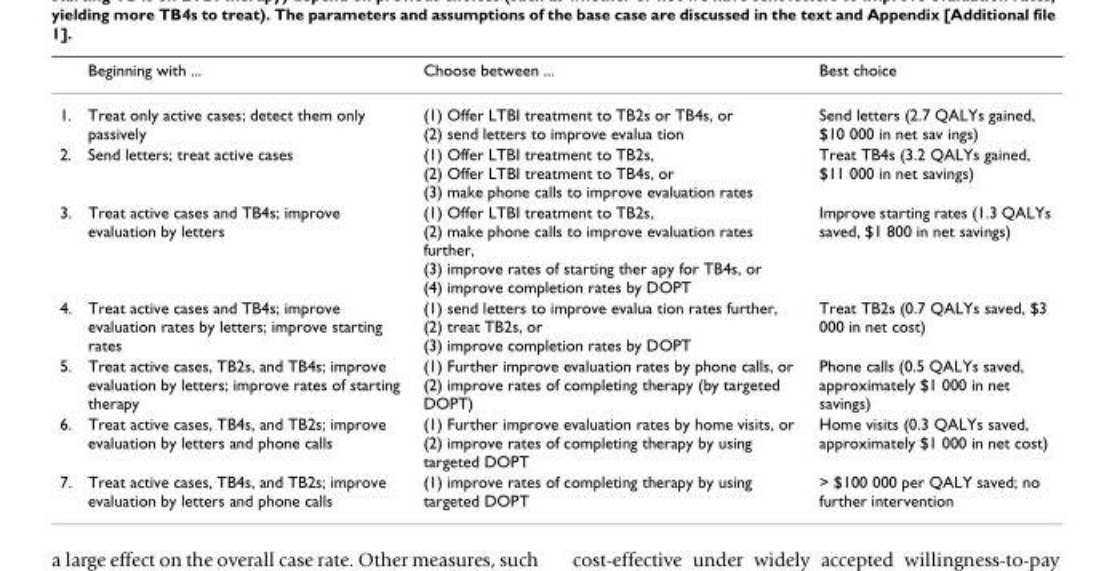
<table><thead><tr><td></td><td>Beginning with ...</td><td>Choose between ...</td><td>Best choice</td></tr></thead><tbody><tr><td>1.</td><td>Treat only active cases; detect them only passively</td><td>(1) Offer LTBI treatment to TB2s or TB4s, or (2) send letters to improve evalua tion</td><td>Send letters (2.7 QALYs gained, $10 000 in net sav ings)</td></tr><tr><td>2.</td><td>Send letters; treat active cases</td><td>(1) Offer LTBI treatment to TB2s, (2) Offer LTBI treatment to TB4s, or (3) make phone calls to improve evaluation rates</td><td>Treat TB4s (3.2 QALYs gained, $11 000 in net savings)</td></tr><tr><td>3.</td><td>Treat active cases and TB4s; improve evaluation by letters</td><td>(1) Offer LTBI treatment to TB2s, (2) make phone calls to improve evaluation rates further, (3) improve rates of starting ther apy for TB4s, or (4) improve completion rates by DOPT</td><td>Improve starting rates (1.3 QALYs saved, $1 800 in net savings)</td></tr><tr><td>4.</td><td>Treat active cases and TB4s; improve evaluation rates by letters; improve starting rates</td><td>(1) send letters to improve evalua tion rates further, (2) treat TB2s, or (3) improve completion rates by DOPT</td><td>Treat TB2s (0.7 QALYs saved, $3 000 in net cost)</td></tr><tr><td>5.</td><td>Treat active cases, TB2s, and TB4s; improve evaluation by letters; improve rates of starting therapy</td><td>(1) Further improve evaluation rates by phone calls, or (2) improve rates of completing therapy (by targeted DOPT)</td><td>Phone calls (0.5 QALYs saved, approximately $1 000 in net savings)</td></tr><tr><td>6.</td><td>Treat active cases, TB4s, and TB2s; improve evaluation by letters and phone calls</td><td>(1) Further improve evaluation rates by home visits, or (2) improve rates of completing therapy by using targeted DOPT</td><td>Home visits (0.3 QALYs saved, approximately $1 000 in net cost)</td></tr><tr><td>7.</td><td>Treat active cases, TB4s, and TB2s; improve evaluation by letters and phone calls</td><td>(1) improve rates of completing therapy by using targeted DOPT</td><td>&gt; $100 000 per QALY saved; no further intervention</td></tr></tbody></table>